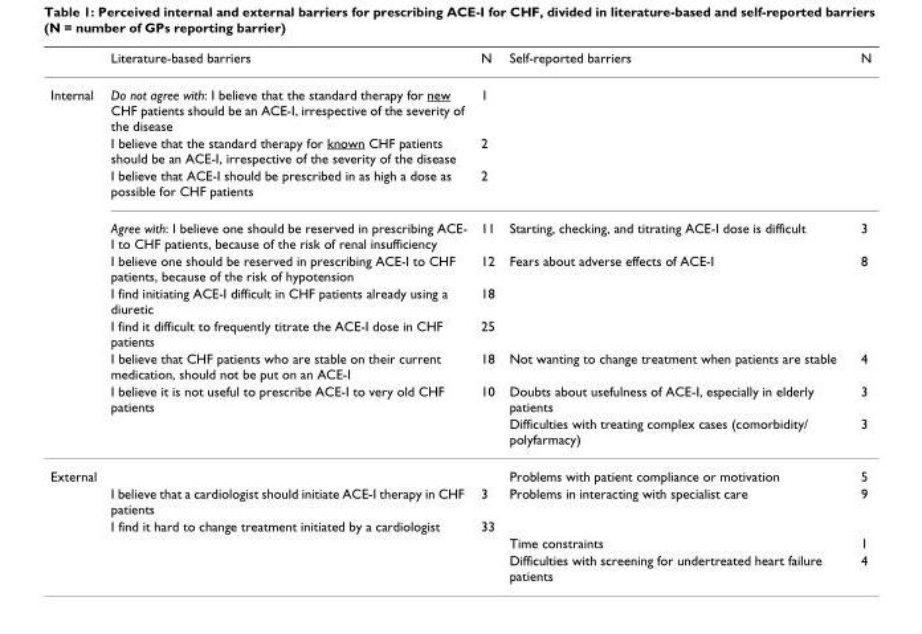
<table><thead><tr><td></td><td>Literature-based barriers</td><td>N</td><td>Self-reported barriers</td><td>N</td></tr></thead><tbody><tr><td rowspan="10">Internal</td><td>Do not agree with: I believe that the standard therapy for new CHF patients should be an ACE-I, irrespective of the severity of the disease</td><td>1</td><td></td><td></td></tr><tr><td>I believe that the standard therapy for known CHF patients should be an ACE-I, irrespective of the severity of the disease</td><td>2</td><td></td><td></td></tr><tr><td>I believe that ACE-I should be prescribed in as high a dose as possible for CHF patients</td><td>2</td><td></td><td></td></tr><tr><td>Agree with: I believe one should be reserved in prescribing ACE- I to CHF patients, because of the risk of renal insufficiency</td><td>11</td><td>Starting, checking, and titrating ACE-I dose is difficult</td><td>3</td></tr><tr><td>I believe one should be reserved in prescribing ACE-I to CHF patients, because of the risk of hypotension</td><td>12</td><td>Fears about adverse effects of ACE-I</td><td>8</td></tr><tr><td>I find initiating ACE-I difficult in CHF patients already using a diuretic</td><td>18</td><td></td><td></td></tr><tr><td>I find it difficult to frequently titrate the ACE-I dose in CHF patients</td><td>25</td><td></td><td></td></tr><tr><td>I believe that CHF patients who are stable on their current medication, should not be put on an ACE-I</td><td>18</td><td>Not wanting to change treatment when patients are stable</td><td>4</td></tr><tr><td>I believe it is not useful to prescribe ACE-I to very old CHF patients</td><td>10</td><td>Doubts about usefulness of ACE-I, especially in elderly patients</td><td>3</td></tr><tr><td></td><td></td><td>Difficulties with treating complex cases (comorbidity/ polyfarmacy)</td><td>3</td></tr><tr><td rowspan="5">External</td><td></td><td></td><td>Problems with patient compliance or motivation</td><td>5</td></tr><tr><td>I believe that a cardiologist should initiate ACE-I therapy in CHF patients</td><td>3</td><td>Problems in interacting with specialist care</td><td>9</td></tr><tr><td>I find it hard to change treatment initiated by a cardiologist</td><td>33</td><td></td><td></td></tr><tr><td></td><td></td><td>Time constraints</td><td>1</td></tr><tr><td></td><td></td><td>Difficulties with screening for undertreated heart failure patients</td><td>4</td></tr></tbody></table>